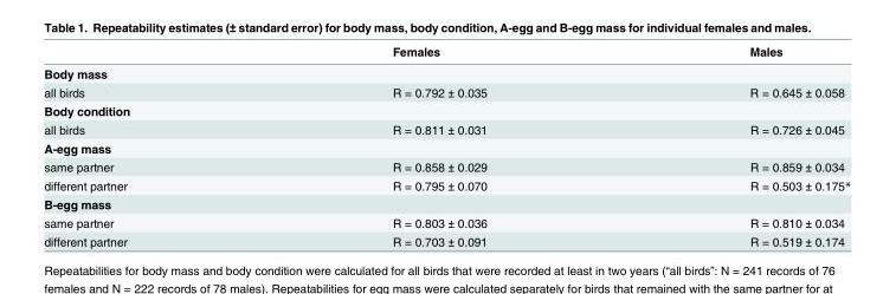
<table><thead><tr><td></td><td>Females</td><td>Males</td></tr></thead><tbody><tr><td colspan="3">Body mass</td></tr><tr><td>all birds</td><td>R = 0.792 ± 0.035</td><td>R = 0.645 ± 0.058</td></tr><tr><td colspan="3">Body condition</td></tr><tr><td>all birds</td><td>R = 0.811 ± 0.031</td><td>R = 0.726 ± 0.045</td></tr><tr><td colspan="3">A-egg mass</td></tr><tr><td>same partner</td><td>R = 0.858 ± 0.029</td><td>R = 0.859 ± 0.034</td></tr><tr><td>different partner</td><td>R = 0.795 ± 0.070</td><td>R = 0.503 ± 0.175*</td></tr><tr><td colspan="3">B-egg mass</td></tr><tr><td>same partner</td><td>R = 0.803 ± 0.036</td><td>R = 0.810 ± 0.034</td></tr><tr><td>different partner</td><td>R = 0.703 ± 0.091</td><td>R = 0.519 ± 0.174</td></tr></tbody></table>